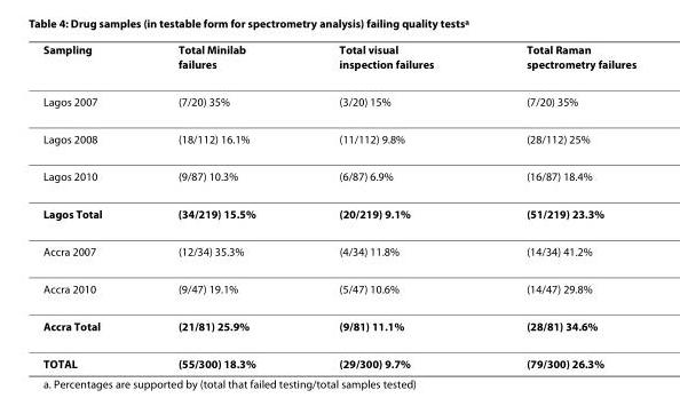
<table><thead><tr><td>Sampling</td><td>Total Minilab failures</td><td>Total visual inspection failures</td><td>Total Raman spectrometry failures</td></tr></thead><tbody><tr><td>Lagos 2007</td><td>(7/20) 35%</td><td>(3/20) 15%</td><td>(7/20) 35%</td></tr><tr><td>Lagos 2008</td><td>(18/112) 16.1%</td><td>(11/112) 9.8%</td><td>(28/112) 25%</td></tr><tr><td>Lagos 2010</td><td>(9/87) 10.3%</td><td>(6/87) 6.9%</td><td>(16/87) 18.4%</td></tr><tr><td>Lagos Total</td><td>(34/219) 15.5%</td><td>(20/219) 9.1%</td><td>(51/219) 23.3%</td></tr><tr><td>Accra 2007</td><td>(12/34) 35.3%</td><td>(4/34) 11.8%</td><td>(14/34) 41.2%</td></tr><tr><td>Accra 2010</td><td>(9/47) 19.1%</td><td>(5/47) 10.6%</td><td>(14/47) 29.8%</td></tr><tr><td>Accra Total</td><td>(21/81) 25.9%</td><td>(9/81) 11.1%</td><td>(28/81) 34.6%</td></tr><tr><td>TOTAL</td><td>(55/300) 18.3%</td><td>(29/300) 9.7%</td><td>(79/300) 26.3%</td></tr></tbody></table>